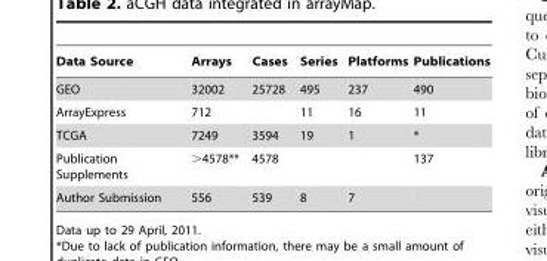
<table><thead><tr><td>Data Source</td><td>Arrays</td><td>Cases</td><td>Series</td><td>Platforms</td><td>Publications</td></tr></thead><tbody><tr><td>GEO</td><td>32002</td><td>25728</td><td>495</td><td>237</td><td>490</td></tr><tr><td>ArrayExpress</td><td>712</td><td></td><td>11</td><td>16</td><td>11</td></tr><tr><td>TCGA</td><td>7249</td><td>3594</td><td>19</td><td>1</td><td>*</td></tr><tr><td>Publication Supplements</td><td>&gt;4578**</td><td>4578</td><td></td><td></td><td>137</td></tr><tr><td>Author Submission</td><td>556</td><td>539</td><td>8</td><td>7</td><td></td></tr></tbody></table>